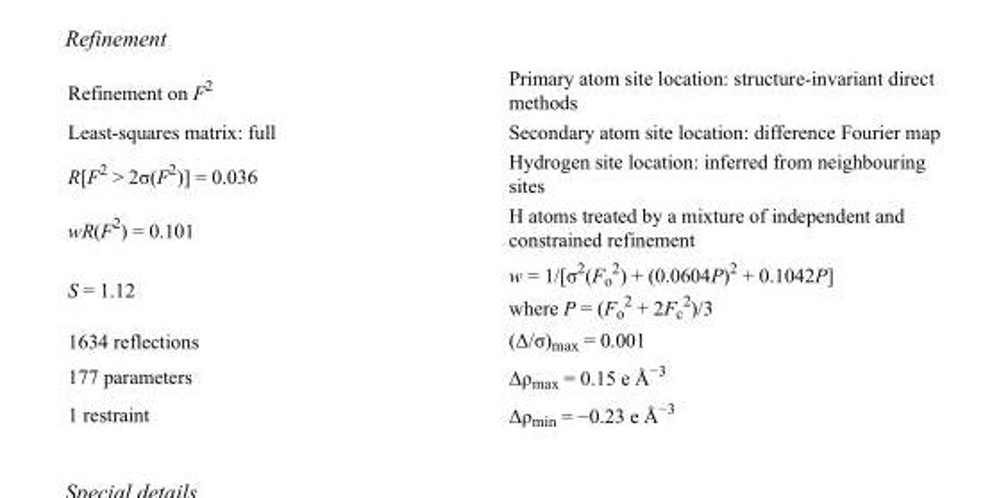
<table><tbody><tr><td>Refinement on F<sup>2</sup></td><td>Primary atom site location: structure-invariant direct methods</td></tr><tr><td>Least-squares matrix: full</td><td>Secondary atom site location: difference Fourier map</td></tr><tr><td>R[F<sup>2</sup> &gt; 2σ(F<sup>2</sup>)] = 0.036</td><td>Hydrogen site location: inferred from neighbouring sites</td></tr><tr><td>wR(F<sup>2</sup>) = 0.101</td><td>H atoms treated by a mixture of independent and constrained refinement</td></tr><tr><td>S = 1.12</td><td>w = 1/[σ<sup>2</sup>(F<sub>o</sub> <sup>2</sup>) + (0.0604P)<sup>2</sup> + 0.1042P] where P = (F<sub>o</sub> <sup>2</sup> + 2F<sub>c</sub> <sup>2</sup>)/3</td></tr><tr><td>1634 reflections</td><td>(Δ/σ)<sub>max</sub> = 0.001</td></tr><tr><td>177 parameters</td><td>Δρ<sub>max</sub> = 0.15 e Å<sup>−3</sup></td></tr><tr><td>1 restraint</td><td>Δρ<sub>min</sub> = −0.23 e Å<sup>−3</sup></td></tr></tbody></table>